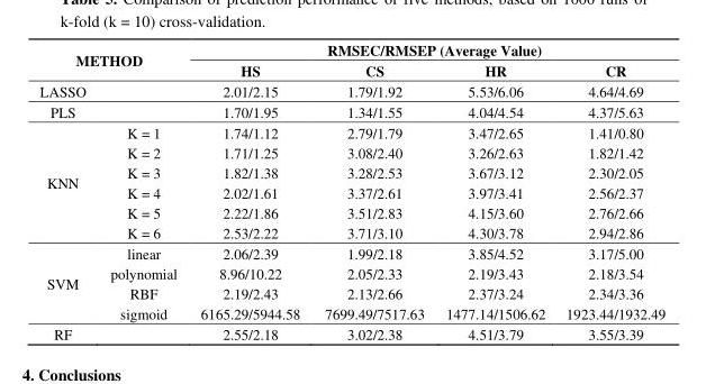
<table><thead><tr><td rowspan="2" colspan="2">METHOD</td><td colspan="4">RMSEC/RMSEP (Average Value)</td></tr><tr><td rowspan="2">HS 2.01/2.15</td><td rowspan="2">CS 1.79/1.92</td><td rowspan="2">HR 5.53/6.06</td><td rowspan="2">CR 4.64/4.69</td></tr><tr><td>LASSO</td><td></td></tr></thead><tbody><tr><td>PLS</td><td></td><td>1.70/1.95</td><td>1.34/1.55</td><td>4.04/4.54</td><td>4.37/5.63</td></tr><tr><td rowspan="6">KNN</td><td>K = 1</td><td>1.74/1.12</td><td>2.79/1.79</td><td>3.47/2.65</td><td>1.41/0.80</td></tr><tr><td>K = 2</td><td>1.71/1.25</td><td>3.08/2.40</td><td>3.26/2.63</td><td>1.82/1.42</td></tr><tr><td>K = 3</td><td>1.82/1.38</td><td>3.28/2.53</td><td>3.67/3.12</td><td>2.30/2.05</td></tr><tr><td>K = 4</td><td>2.02/1.61</td><td>3.37/2.61</td><td>3.97/3.41</td><td>2.56/2.37</td></tr><tr><td>K = 5</td><td>2.22/1.86</td><td>3.51/2.83</td><td>4.15/3.60</td><td>2.76/2.66</td></tr><tr><td>K = 6</td><td>2.53/2.22</td><td>3.71/3.10</td><td>4.30/3.78</td><td>2.94/2.86</td></tr><tr><td rowspan="4">SVM</td><td>linear</td><td>2.06/2.39</td><td>1.99/2.18</td><td>3.85/4.52</td><td>3.17/5.00</td></tr><tr><td>polynomial</td><td>8.96/10.22</td><td>2.05/2.33</td><td>2.19/3.43</td><td>2.18/3.54</td></tr><tr><td>RBF</td><td>2.19/2.43</td><td>2.13/2.66</td><td>2.37/3.24</td><td>2.34/3.36</td></tr><tr><td>sigmoid</td><td>6165.29/5944.58</td><td>7699.49/7517.63</td><td>1477.14/1506.62</td><td>1923.44/1932.49</td></tr><tr><td>RF</td><td></td><td>2.55/2.18</td><td>3.02/2.38</td><td>4.51/3.79</td><td>3.55/3.39</td></tr></tbody></table>